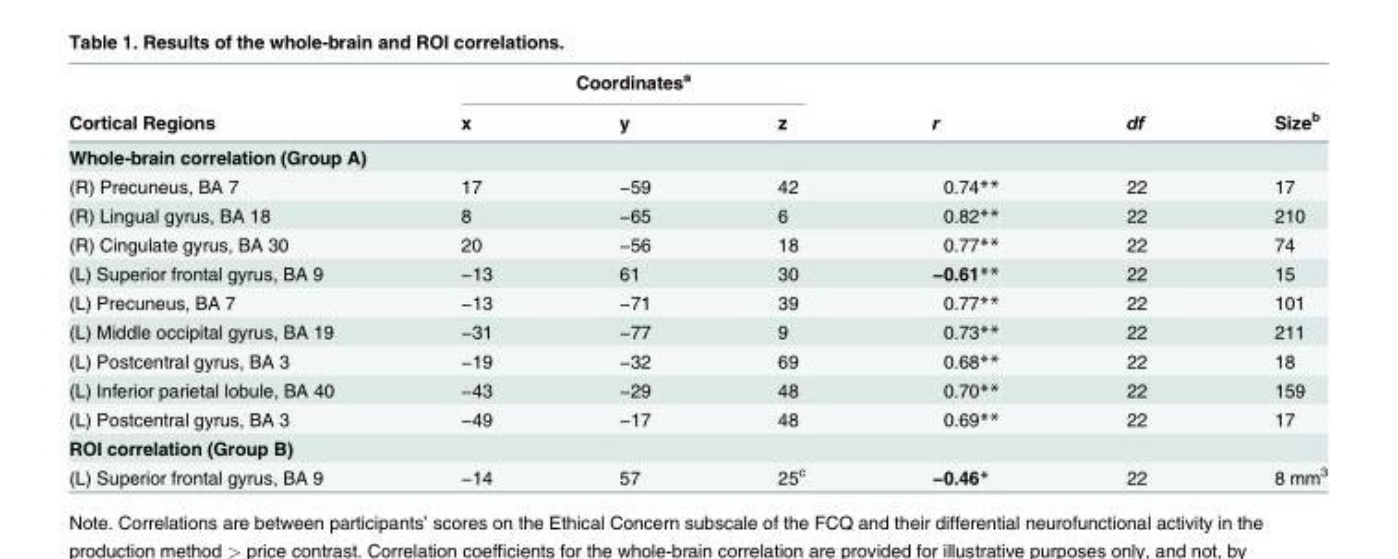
<table><thead><tr><td rowspan="2">Cortical Regions</td><td colspan="3">Coordinates<sup>a</sup></td><td rowspan="2">r</td><td rowspan="2">df</td><td rowspan="2">Size<sup>b</sup></td></tr><tr><td>x</td><td>y</td><td>z</td></tr></thead><tbody><tr><td colspan="7">Whole-brain correlation (Group A)</td></tr><tr><td>(R) Precuneus, BA 7</td><td>17</td><td>−59</td><td>42</td><td>0.74**</td><td>22</td><td>17</td></tr><tr><td>(R) Lingual gyrus, BA 18</td><td>8</td><td>−65</td><td>6</td><td>0.82**</td><td>22</td><td>210</td></tr><tr><td>(R) Cingulate gyrus, BA 30</td><td>20</td><td>−56</td><td>18</td><td>0.77**</td><td>22</td><td>74</td></tr><tr><td>(L) Superior frontal gyrus, BA 9</td><td>−13</td><td>61</td><td>30</td><td>−0.61**</td><td>22</td><td>15</td></tr><tr><td>(L) Precuneus, BA 7</td><td>−13</td><td>−71</td><td>39</td><td>0.77**</td><td>22</td><td>101</td></tr><tr><td>(L) Middle occipital gyrus, BA 19</td><td>−31</td><td>−77</td><td>9</td><td>0.73**</td><td>22</td><td>211</td></tr><tr><td>(L) Postcentral gyrus, BA 3</td><td>−19</td><td>−32</td><td>69</td><td>0.68**</td><td>22</td><td>18</td></tr><tr><td>(L) Inferior parietal lobule, BA 40</td><td>−43</td><td>−29</td><td>48</td><td>0.70**</td><td>22</td><td>159</td></tr><tr><td>(L) Postcentral gyrus, BA 3</td><td>−49</td><td>−17</td><td>48</td><td>0.69**</td><td>22</td><td>17</td></tr><tr><td colspan="7">ROI correlation (Group B)</td></tr><tr><td>(L) Superior frontal gyrus, BA 9</td><td>−14</td><td>57</td><td>25<sup>c</sup></td><td>−0.46*</td><td>22</td><td>8 mm<sup>3</sup></td></tr></tbody></table>